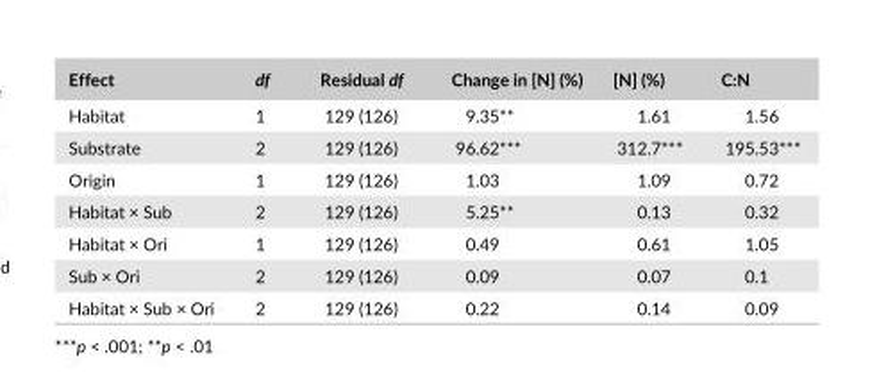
<table><thead><tr><td>Effect</td><td>df</td><td>Residual df</td><td>Change in [N] (%)</td><td>[N] (%)</td><td>C:N</td></tr></thead><tbody><tr><td>Habitat</td><td>1</td><td>129 (126)</td><td>9.35**</td><td>1.61</td><td>1.56</td></tr><tr><td>Substrate</td><td>2</td><td>129 (126)</td><td>96.62***</td><td>312.7***</td><td>195.53***</td></tr><tr><td>Origin</td><td>1</td><td>129 (126)</td><td>1.03</td><td>1.09</td><td>0.72</td></tr><tr><td>Habitat × Sub</td><td>2</td><td>129 (126)</td><td>5.25**</td><td>0.13</td><td>0.32</td></tr><tr><td>Habitat × Ori</td><td>1</td><td>129 (126)</td><td>0.49</td><td>0.61</td><td>1.05</td></tr><tr><td>Sub × Ori</td><td>2</td><td>129 (126)</td><td>0.09</td><td>0.07</td><td>0.1</td></tr><tr><td>Habitat × Sub × Ori</td><td>2</td><td>129 (126)</td><td>0.22</td><td>0.14</td><td>0.09</td></tr></tbody></table>